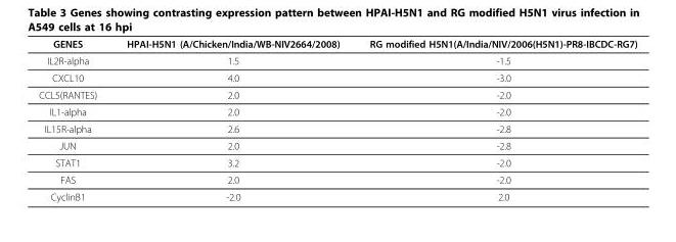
<table><thead><tr><td>GENES</td><td>HPAI-H5N1 (A/Chicken/India/WB-NIV2664/2008)</td><td>RG modified H5N1(A/India/NIV/2006(H5N1)-PR8-IBCDC-RG7)</td></tr></thead><tbody><tr><td>IL2R-alpha</td><td>1.5</td><td>-1.5</td></tr><tr><td>CXCL10</td><td>4.0</td><td>-3.0</td></tr><tr><td>CCL5(RANTES)</td><td>2.0</td><td>-2.0</td></tr><tr><td>IL1-alpha</td><td>2.0</td><td>-2.0</td></tr><tr><td>IL15R-alpha</td><td>2.6</td><td>-2.8</td></tr><tr><td>JUN</td><td>2.0</td><td>-2.8</td></tr><tr><td>STAT1</td><td>3.2</td><td>-2.0</td></tr><tr><td>FAS</td><td>2.0</td><td>-2.0</td></tr><tr><td>CyclinB1</td><td>-2.0</td><td>2.0</td></tr></tbody></table>